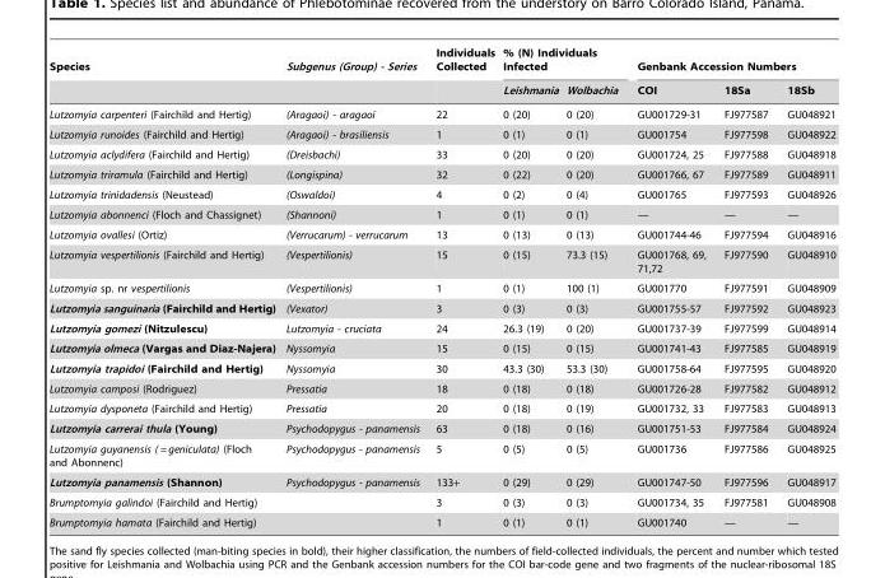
<table><thead><tr><td rowspan="2">Species</td><td rowspan="2">Subgenus (Group) - Series</td><td rowspan="2">Individuals Collected</td><td colspan="2">% (N) Individuals Infected</td><td colspan="3">Genbank Accession Numbers</td></tr><tr><td>Leishmania</td><td>Wolbachia</td><td>COI</td><td>18Sa</td><td>18Sb</td></tr></thead><tbody><tr><td>Lutzomyia carpenteri (Fairchild and Hertig)</td><td>(Aragaoi) - aragaoi</td><td>22</td><td>0 (20)</td><td>0 (20)</td><td>GU001729-31</td><td>FJ977587</td><td>GU048921</td></tr><tr><td>Lutzomyia runoides (Fairchild and Hertig)</td><td>(Aragaoi) - brasiliensis</td><td>1</td><td>0 (1)</td><td>0 (1)</td><td>GU001754</td><td>FJ977598</td><td>GU048922</td></tr><tr><td>Lutzomyia aclydifera (Fairchild and Hertig)</td><td>(Dreisbachi)</td><td>33</td><td>0 (20)</td><td>0 (20)</td><td>GU001724, 25</td><td>FJ977588</td><td>GU048918</td></tr><tr><td>Lutzomyia triramula (Fairchild and Hertig)</td><td>(Longispina)</td><td>32</td><td>0 (22)</td><td>0 (20)</td><td>GU001766, 67</td><td>FJ977589</td><td>GU048911</td></tr><tr><td>Lutzomyia trinidadensis (Neustead)</td><td>(Oswaldoi)</td><td>4</td><td>0 (2)</td><td>0 (4)</td><td>GU001765</td><td>FJ977593</td><td>GU048926</td></tr><tr><td>Lutzomyia abonnenci (Floch and Chassignet)</td><td>(Shannoni)</td><td>1</td><td>0 (1)</td><td>0 (1)</td><td>—</td><td>—</td><td>—</td></tr><tr><td>Lutzomyia ovallesi (Ortiz)</td><td>(Verrucarum) - verrucarum</td><td>13</td><td>0 (13)</td><td>0 (13)</td><td>GU001744-46</td><td>FJ977594</td><td>GU048916</td></tr><tr><td>Lutzomyia vespertilionis (Fairchild and Hertig)</td><td>(Vespertilionis)</td><td>15</td><td>0 (15)</td><td>73.3 (15)</td><td>GU001768, 69, 71,72</td><td>FJ977590</td><td>GU048910</td></tr><tr><td>Lutzomyia sp. nr vespertilionis</td><td>(Vespertilionis)</td><td>1</td><td>0 (1)</td><td>100 (1)</td><td>GU001770</td><td>FJ977591</td><td>GU048909</td></tr><tr><td>Lutzomyia sanguinaria (Fairchild and Hertig)</td><td>(Vexator)</td><td>3</td><td>0 (3)</td><td>0 (3)</td><td>GU001755-57</td><td>FJ977592</td><td>GU048923</td></tr><tr><td>Lutzomyia gomezi (Nitzulescu)</td><td>Lutzomyia - cruciata</td><td>24</td><td>26.3 (19)</td><td>0 (20)</td><td>GU001737-39</td><td>FJ977599</td><td>GU048914</td></tr><tr><td>Lutzomyia olmeca (Vargas and Diaz-Najera)</td><td>Nyssomyia</td><td>15</td><td>0 (15)</td><td>0 (15)</td><td>GU001741-43</td><td>FJ977585</td><td>GU048919</td></tr><tr><td>Lutzomyia trapidoi (Fairchild and Hertig)</td><td>Nyssomyia</td><td>30</td><td>43.3 (30)</td><td>53.3 (30)</td><td>GU001758-64</td><td>FJ977595</td><td>GU048920</td></tr><tr><td>Lutzomyia camposi (Rodriguez)</td><td>Pressatia</td><td>18</td><td>0 (18)</td><td>0 (18)</td><td>GU001726-28</td><td>FJ977582</td><td>GU048912</td></tr><tr><td>Lutzomyia dysponeta (Fairchild and Hertig)</td><td>Pressatia</td><td>20</td><td>0 (18)</td><td>0 (19)</td><td>GU001732, 33</td><td>FJ977583</td><td>GU048913</td></tr><tr><td>Lutzomyia carrerai thula (Young)</td><td>Psychodopygus - panamensis</td><td>63</td><td>0 (18)</td><td>0 (16)</td><td>GU001751-53</td><td>FJ977584</td><td>GU048924</td></tr><tr><td>Lutzomyia guyanensis ( = geniculata) (Floch and Abonnenc)</td><td>Psychodopygus - panamensis</td><td>5</td><td>0 (5)</td><td>0 (5)</td><td>GU001736</td><td>FJ977586</td><td>GU048925</td></tr><tr><td>Lutzomyia panamensis (Shannon)</td><td>Psychodopygus - panamensis</td><td>133+</td><td>0 (29)</td><td>0 (29)</td><td>GU001747-50</td><td>FJ977596</td><td>GU048917</td></tr><tr><td colspan="2">Brumptomyia galindoi (Fairchild and Hertig)</td><td>3</td><td>0 (3)</td><td>0 (3)</td><td>GU001734, 35</td><td>FJ977581</td><td>GU048908</td></tr><tr><td colspan="2">Brumptomyia hamata (Fairchild and Hertig)</td><td>1</td><td>0 (1)</td><td>0 (1)</td><td>GU001740</td><td>—</td><td>—</td></tr></tbody></table>